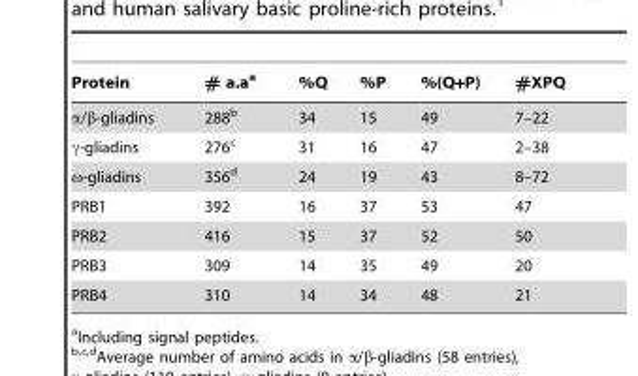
<table><thead><tr><td>Protein</td><td># a.a<sup>a</sup></td><td>%Q</td><td>%P</td><td>%(Q+P)</td><td>#XPQ</td></tr></thead><tbody><tr><td>α/β-gliadins</td><td>288<sup>b</sup></td><td>34</td><td>15</td><td>49</td><td>7–22</td></tr><tr><td>γ-gliadins</td><td>276<sup>c</sup></td><td>31</td><td>16</td><td>47</td><td>2–38</td></tr><tr><td>ω-gliadins</td><td>356<sup>d</sup></td><td>24</td><td>19</td><td>43</td><td>8–72</td></tr><tr><td>PRB1</td><td>392</td><td>16</td><td>37</td><td>53</td><td>47</td></tr><tr><td>PRB2</td><td>416</td><td>15</td><td>37</td><td>52</td><td>50</td></tr><tr><td>PRB3</td><td>309</td><td>14</td><td>35</td><td>49</td><td>20</td></tr><tr><td>PRB4</td><td>310</td><td>14</td><td>34</td><td>48</td><td>21</td></tr></tbody></table>